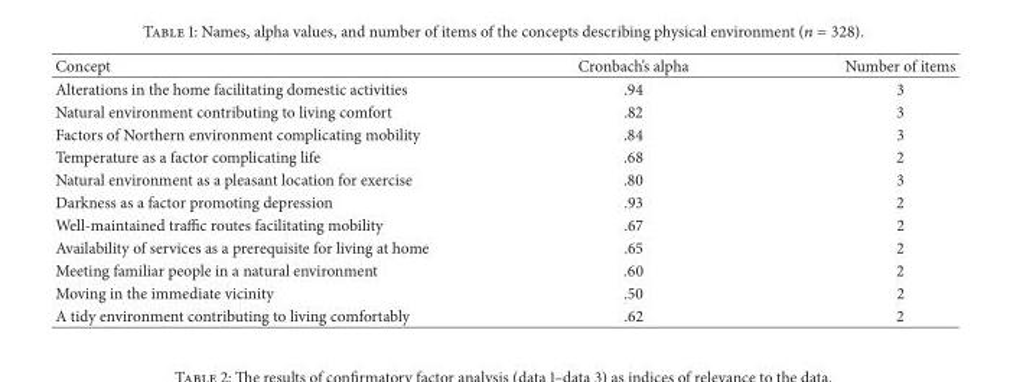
<table><thead><tr><td>Concept</td><td>Cronbach’s alpha</td><td>Number of items</td></tr></thead><tbody><tr><td>Alterations in the home facilitating domestic activities</td><td>.94</td><td>3</td></tr><tr><td>Natural environment contributing to living comfort</td><td>.82</td><td>3</td></tr><tr><td>Factors of Northern environment complicating mobility</td><td>.84</td><td>3</td></tr><tr><td>Temperature as a factor complicating life</td><td>.68</td><td>2</td></tr><tr><td>Natural environment as a pleasant location for exercise</td><td>.80</td><td>3</td></tr><tr><td>Darkness as a factor promoting depression</td><td>.93</td><td>2</td></tr><tr><td>Well-maintained traffic routes facilitating mobility</td><td>.67</td><td>2</td></tr><tr><td>Availability of services as a prerequisite for living at home</td><td>.65</td><td>2</td></tr><tr><td>Meeting familiar people in a natural environment</td><td>.60</td><td>2</td></tr><tr><td>Moving in the immediate vicinity</td><td>.50</td><td>2</td></tr><tr><td>A tidy environment contributing to living comfortably</td><td>.62</td><td>2</td></tr></tbody></table>